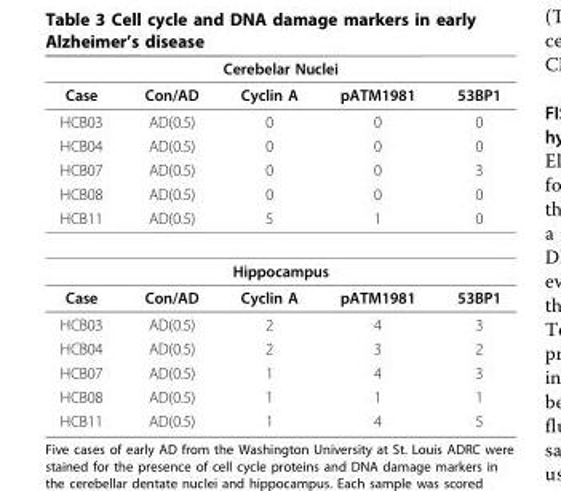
<table><thead><tr><td colspan="5">Cerebelar Nuclei</td></tr><tr><td>Case</td><td>Con/AD</td><td>Cyclin A</td><td>pATM1981</td><td>53BP1</td></tr></thead><tbody><tr><td>HCB03</td><td>AD(0.5)</td><td>0</td><td>0</td><td>0</td></tr><tr><td>HCB04</td><td>AD(0.5)</td><td>0</td><td>0</td><td>0</td></tr><tr><td>HCB07</td><td>AD(0.5)</td><td>0</td><td>0</td><td>3</td></tr><tr><td>HCB08</td><td>AD(0.5)</td><td>0</td><td>0</td><td>0</td></tr><tr><td>HCB11</td><td>AD(0.5)</td><td>5</td><td>1</td><td>0</td></tr><tr><td colspan="5">Hippocampus</td></tr><tr><td>Case</td><td>Con/AD</td><td>Cyclin A</td><td>pATM1981</td><td>53BP1</td></tr><tr><td>HCB03</td><td>AD(0.5)</td><td>2</td><td>4</td><td>3</td></tr><tr><td>HCB04</td><td>AD(0.5)</td><td>2</td><td>3</td><td>2</td></tr><tr><td>HCB07</td><td>AD(0.5)</td><td>1</td><td>4</td><td>3</td></tr><tr><td>HCB08</td><td>AD(0.5)</td><td>1</td><td>1</td><td>1</td></tr><tr><td>HCB11</td><td>AD(0.5)</td><td>1</td><td>4</td><td>5</td></tr></tbody></table>